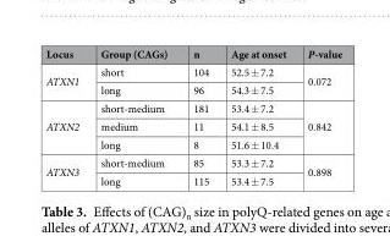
<table><thead><tr><td>Locus</td><td>Group (CAGs)</td><td>n</td><td>Age at onset</td><td>P-value</td></tr></thead><tbody><tr><td rowspan="2">ATXN1</td><td>short</td><td>104</td><td>52.5 ± 7.2</td><td rowspan="2">0.072</td></tr><tr><td>long</td><td>96</td><td>54.3 ± 7.5</td></tr><tr><td rowspan="3">ATXN2</td><td>short-medium</td><td>181</td><td>53.4 ± 7.2</td><td rowspan="3">0.842</td></tr><tr><td>medium</td><td>11</td><td>54.1 ± 8.5</td></tr><tr><td>long</td><td>8</td><td>51.6 ± 10.4</td></tr><tr><td rowspan="2">ATXN3</td><td>short-medium</td><td>85</td><td>53.3 ± 7.2</td><td rowspan="2">0.898</td></tr><tr><td>long</td><td>115</td><td>53.4 ± 7.5</td></tr></tbody></table>